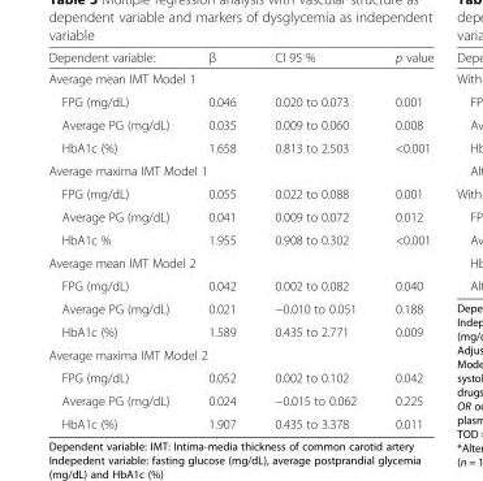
<table><thead><tr><td>Dependent variable:</td><td>β</td><td>CI 95 %</td><td>p value</td></tr></thead><tbody><tr><td colspan="4">Average mean IMT Model 1</td></tr><tr><td>FPG (mg/dL)</td><td>0.046</td><td>0.020 to 0.073</td><td>0.001</td></tr><tr><td>Average PG (mg/dL)</td><td>0.035</td><td>0.009 to 0.060</td><td>0.008</td></tr><tr><td>HbA1c (%)</td><td>1.658</td><td>0.813 to 2.503</td><td>&lt;0.001</td></tr><tr><td colspan="4">Average maxima IMT Model 1</td></tr><tr><td>FPG (mg/dL)</td><td>0.055</td><td>0.022 to 0.088</td><td>0.001</td></tr><tr><td>Average PG (mg/dL)</td><td>0.041</td><td>0.009 to 0.072</td><td>0.012</td></tr><tr><td>HbA1c %</td><td>1.955</td><td>0.908 to 0.302</td><td>&lt;0.001</td></tr><tr><td colspan="4">Average mean IMT Model 2</td></tr><tr><td>FPG (mg/dL)</td><td>0.042</td><td>0.002 to 0.082</td><td>0.040</td></tr><tr><td>Average PG (mg/dL)</td><td>0.021</td><td>−0.010 to 0.051</td><td>0.188</td></tr><tr><td>HbA1c (%)</td><td>1.589</td><td>0.435 to 2.771</td><td>0.009</td></tr><tr><td colspan="4">Average maxima IMT Model 2</td></tr><tr><td>FPG (mg/dL)</td><td>0.052</td><td>0.002 to 0.102</td><td>0.042</td></tr><tr><td>Average PG (mg/dL)</td><td>0.024</td><td>−0.015 to 0.062</td><td>0.225</td></tr><tr><td>HbA1c (%)</td><td>1.907</td><td>0.435 to 3.378</td><td>0.011</td></tr></tbody></table>